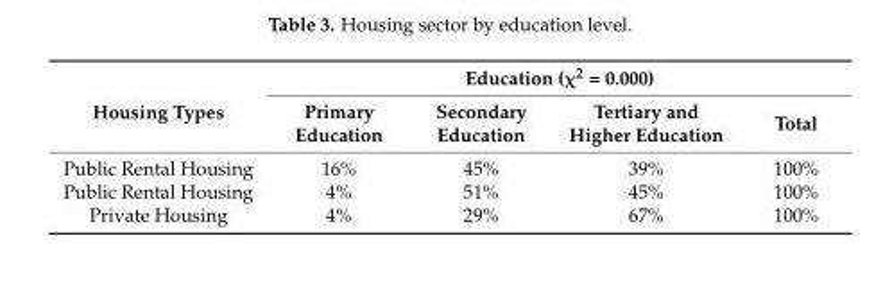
<table><thead><tr><td rowspan="2">Housing Types</td><td colspan="4">Education (χ<sup>2</sup> = 0.000)</td></tr><tr><td>Primary Education</td><td>Secondary Education</td><td>Tertiary and Higher Education</td><td>Total</td></tr></thead><tbody><tr><td>Public Rental Housing</td><td>16%</td><td>45%</td><td>39%</td><td>100%</td></tr><tr><td>Public Rental Housing</td><td>4%</td><td>51%</td><td>45%</td><td>100%</td></tr><tr><td>Private Housing</td><td>4%</td><td>29%</td><td>67%</td><td>100%</td></tr></tbody></table>